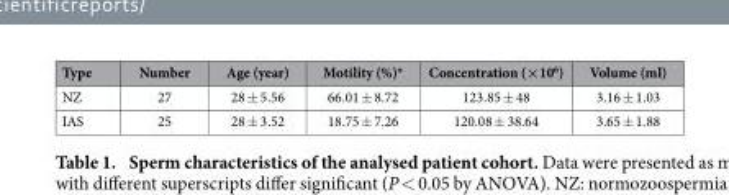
<table><thead><tr><td>Type</td><td>Number</td><td>Age (year)</td><td>Motility (%)*</td><td>Concentration (×10<sup>6</sup>)</td><td>Volume (ml)</td></tr></thead><tbody><tr><td>NZ</td><td>27</td><td>28 ± 5.56</td><td>66.01 ± 8.72</td><td>123.85 ± 48</td><td>3.16 ± 1.03</td></tr><tr><td>IAS</td><td>25</td><td>28 ± 3.52</td><td>18.75 ± 7.26</td><td>120.08 ± 38.64</td><td>3.65 ± 1.88</td></tr></tbody></table>